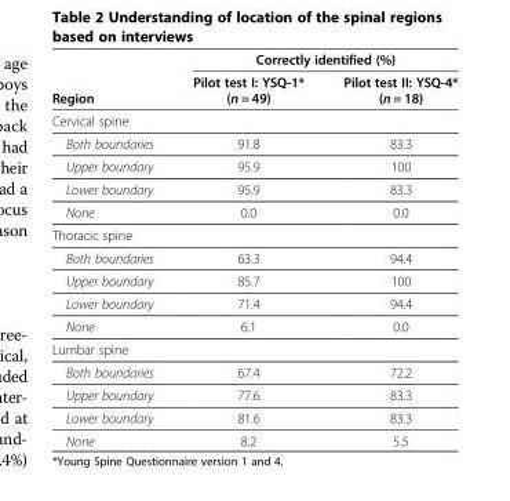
<table><thead><tr><td rowspan="2">Region</td><td colspan="2">Correctly identified (%)</td></tr><tr><td>Pilot test I: YSQ-1* (n = 49)</td><td>Pilot test II: YSQ-4* (n = 18)</td></tr></thead><tbody><tr><td colspan="3">Cervical spine</td></tr><tr><td>Both boundaries</td><td>91.8</td><td>83.3</td></tr><tr><td>Upper boundary</td><td>95.9</td><td>100</td></tr><tr><td>Lower boundary</td><td>95.9</td><td>83.3</td></tr><tr><td>None</td><td>0.0</td><td>0.0</td></tr><tr><td colspan="3">Thoracic spine</td></tr><tr><td>Both boundaries</td><td>63.3</td><td>94.4</td></tr><tr><td>Upper boundary</td><td>85.7</td><td>100</td></tr><tr><td>Lower boundary</td><td>71.4</td><td>94.4</td></tr><tr><td>None</td><td>6.1</td><td>0.0</td></tr><tr><td colspan="3">Lumbar spine</td></tr><tr><td>Both boundaries</td><td>67.4</td><td>72.2</td></tr><tr><td>Upper boundary</td><td>77.6</td><td>83.3</td></tr><tr><td>Lower boundary</td><td>81.6</td><td>83.3</td></tr><tr><td>None</td><td>8.2</td><td>5.5</td></tr></tbody></table>